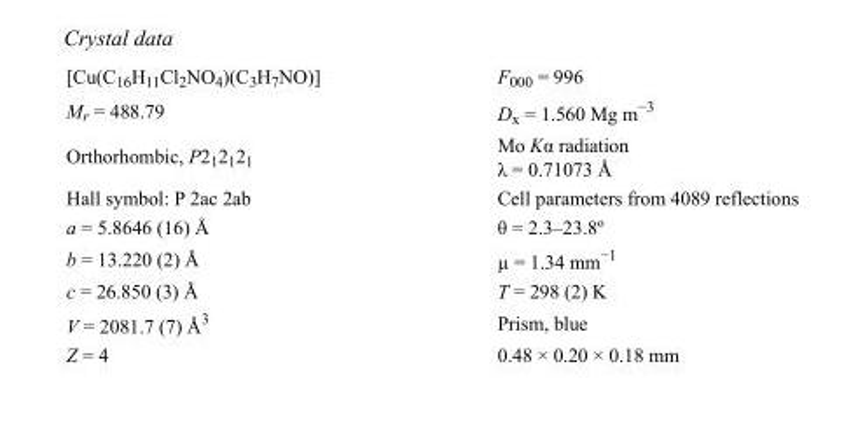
<table><tbody><tr><td>[Cu(C<sub>16</sub>H<sub>11</sub>Cl<sub>2</sub>NO<sub>4</sub>)(C<sub>3</sub>H<sub>7</sub>NO)]</td><td>F<sub>000</sub> = 996</td></tr><tr><td>M<sub>r</sub> = 488.79</td><td>D<sub>x</sub> = 1.560 Mg m<sup>−3</sup></td></tr><tr><td>Orthorhombic, P2<sub>1</sub>2<sub>1</sub>2<sub>1</sub></td><td>Mo Kα radiation λ = 0.71073 Å</td></tr><tr><td>Hall symbol: P 2ac 2ab</td><td>Cell parameters from 4089 reflections</td></tr><tr><td>a = 5.8646 (16) Å</td><td>θ = 2.3–23.8º</td></tr><tr><td>b = 13.220 (2) Å</td><td>µ = 1.34 mm<sup>−1</sup></td></tr><tr><td>c = 26.850 (3) Å</td><td>T = 298 (2) K</td></tr><tr><td>V = 2081.7 (7) Å<sup>3</sup></td><td>Prism, blue</td></tr><tr><td>Z = 4</td><td>0.48 × 0.20 × 0.18 mm</td></tr></tbody></table>